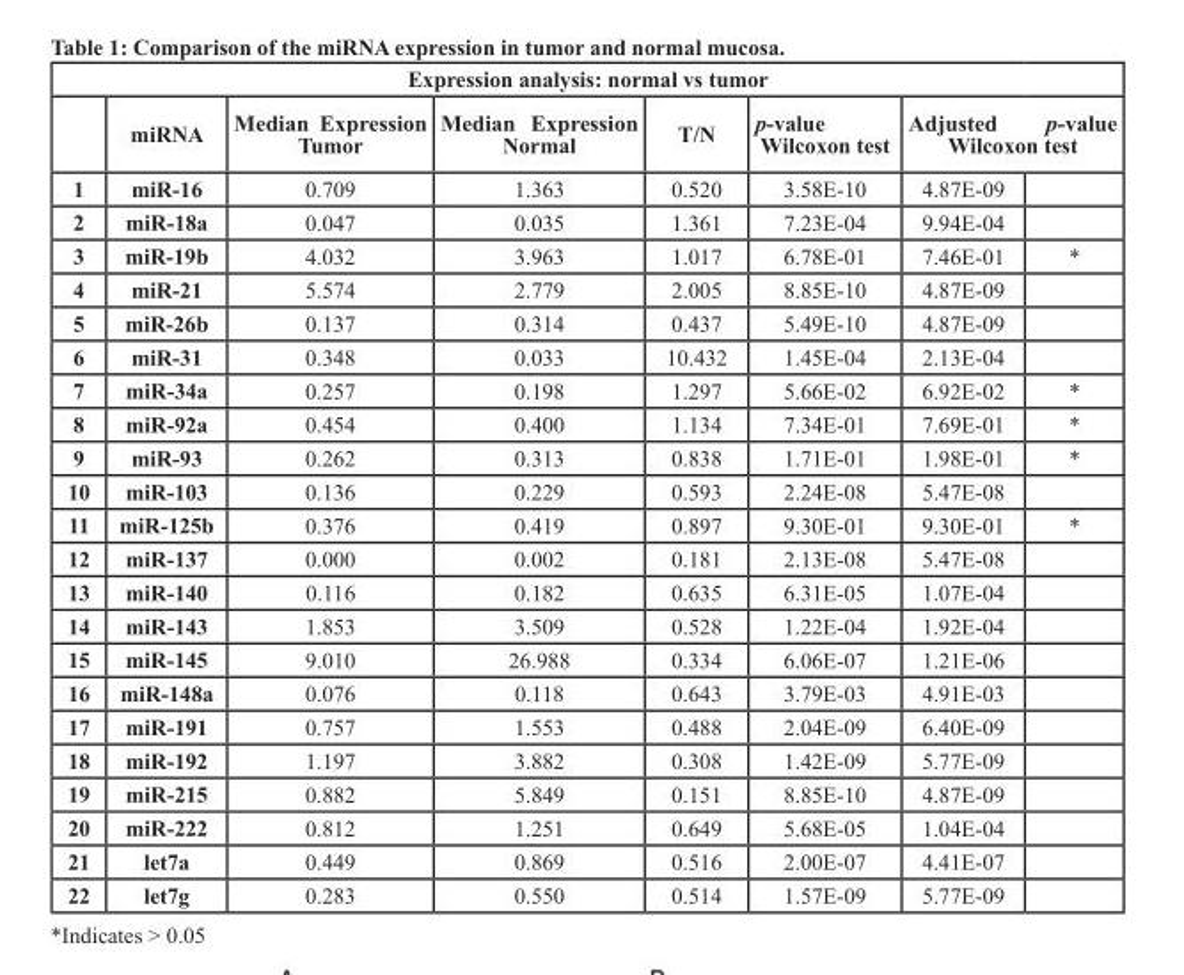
<table><thead><tr><td colspan="8">Expression analysis: normal vs tumor</td></tr><tr><td rowspan="2">1</td><td rowspan="2">miRNA miR-16</td><td rowspan="2">Median Expression Tumor 0.709</td><td rowspan="2">Median Expression Normal 1.363</td><td rowspan="2">T/N 0.520</td><td rowspan="2">p-value Wilcoxon test 3.58E-10</td><td colspan="2">Adjusted p-value Wilcoxon test</td></tr><tr><td>4.87E-09</td><td></td></tr></thead><tbody><tr><td>2</td><td>miR-18a</td><td>0.047</td><td>0.035</td><td>1.361</td><td>7.23E-04</td><td>9.94E-04</td><td></td></tr><tr><td>3</td><td>miR-19b</td><td>4.032</td><td>3.963</td><td>1.017</td><td>6.78E-01</td><td>7.46E-01</td><td>*</td></tr><tr><td>4</td><td>miR-21</td><td>5.574</td><td>2.779</td><td>2.005</td><td>8.85E-10</td><td>4.87E-09</td><td></td></tr><tr><td>5</td><td>miR-26b</td><td>0.137</td><td>0.314</td><td>0.437</td><td>5.49E-10</td><td>4.87E-09</td><td></td></tr><tr><td>6</td><td>miR-31</td><td>0.348</td><td>0.033</td><td>10.432</td><td>1.45E-04</td><td>2.13E-04</td><td></td></tr><tr><td>7</td><td>miR-34a</td><td>0.257</td><td>0.198</td><td>1.297</td><td>5.66E-02</td><td>6.92E-02</td><td>*</td></tr><tr><td>8</td><td>miR-92a</td><td>0.454</td><td>0.400</td><td>1.134</td><td>7.34E-01</td><td>7.69E-01</td><td>*</td></tr><tr><td>9</td><td>miR-93</td><td>0.262</td><td>0.313</td><td>0.838</td><td>1.71E-01</td><td>1.98E-01</td><td>*</td></tr><tr><td>10</td><td>miR-103</td><td>0.136</td><td>0.229</td><td>0.593</td><td>2.24E-08</td><td>5.47E-08</td><td></td></tr><tr><td>11</td><td>miR-125b</td><td>0.376</td><td>0.419</td><td>0.897</td><td>9.30E-01</td><td>9.30E-01</td><td>*</td></tr><tr><td>12</td><td>miR-137</td><td>0.000</td><td>0.002</td><td>0.181</td><td>2.13E-08</td><td>5.47E-08</td><td></td></tr><tr><td>13</td><td>miR-140</td><td>0.116</td><td>0.182</td><td>0.635</td><td>6.31E-05</td><td>1.07E-04</td><td></td></tr><tr><td>14</td><td>miR-143</td><td>1.853</td><td>3.509</td><td>0.528</td><td>1.22E-04</td><td>1.92E-04</td><td></td></tr><tr><td>15</td><td>miR-145</td><td>9.010</td><td>26.988</td><td>0.334</td><td>6.06E-07</td><td>1.21E-06</td><td></td></tr><tr><td>16</td><td>miR-148a</td><td>0.076</td><td>0.118</td><td>0.643</td><td>3.79E-03</td><td>4.91E-03</td><td></td></tr><tr><td>17</td><td>miR-191</td><td>0.757</td><td>1.553</td><td>0.488</td><td>2.04E-09</td><td>6.40E-09</td><td></td></tr><tr><td>18</td><td>miR-192</td><td>1.197</td><td>3.882</td><td>0.308</td><td>1.42E-09</td><td>5.77E-09</td><td></td></tr><tr><td>19</td><td>miR-215</td><td>0.882</td><td>5.849</td><td>0.151</td><td>8.85E-10</td><td>4.87E-09</td><td></td></tr><tr><td>20</td><td>miR-222</td><td>0.812</td><td>1.251</td><td>0.649</td><td>5.68E-05</td><td>1.04E-04</td><td></td></tr><tr><td>21</td><td>let7a</td><td>0.449</td><td>0.869</td><td>0.516</td><td>2.00E-07</td><td>4.41E-07</td><td></td></tr><tr><td>22</td><td>let7g</td><td>0.283</td><td>0.550</td><td>0.514</td><td>1.57E-09</td><td>5.77E-09</td><td></td></tr></tbody></table>